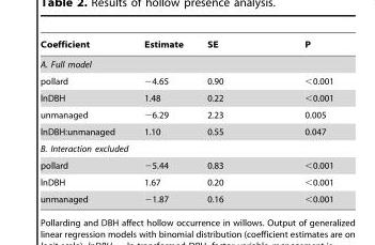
<table><thead><tr><td>Coefficient</td><td>Estimate</td><td>SE</td><td>P</td></tr></thead><tbody><tr><td colspan="4">A. Full model</td></tr><tr><td>pollard</td><td>−4.65</td><td>0.90</td><td>&lt;0.001</td></tr><tr><td>lnDBH</td><td>1.48</td><td>0.22</td><td>&lt;0.001</td></tr><tr><td>unmanaged</td><td>−6.29</td><td>2.23</td><td>0.005</td></tr><tr><td>lnDBH:unmanaged</td><td>1.10</td><td>0.55</td><td>0.047</td></tr><tr><td colspan="4">B. Interaction excluded</td></tr><tr><td>pollard</td><td>−5.44</td><td>0.83</td><td>&lt;0.001</td></tr><tr><td>lnDBH</td><td>1.67</td><td>0.20</td><td>&lt;0.001</td></tr><tr><td>unmanaged</td><td>−1.87</td><td>0.16</td><td>&lt;0.001</td></tr></tbody></table>